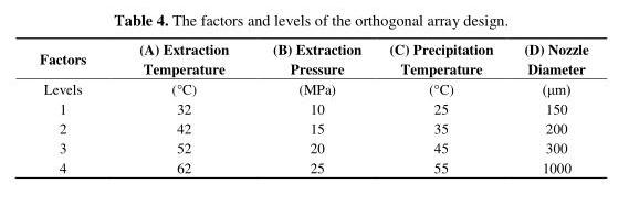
<table><thead><tr><td rowspan="2">Factors Levels</td><td rowspan="2">(A) Extraction Temperature (°C)</td><td rowspan="2">(B) Extraction Pressure (MPa)</td><td rowspan="2">(C) Precipitation Temperature (°C)</td><td rowspan="2">(D) Nozzle Diameter (μm)</td></tr><tr></tr></thead><tbody><tr><td>1</td><td>32</td><td>10</td><td>25</td><td>150</td></tr><tr><td>2</td><td>42</td><td>15</td><td>35</td><td>200</td></tr><tr><td>3</td><td>52</td><td>20</td><td>45</td><td>300</td></tr><tr><td>4</td><td>62</td><td>25</td><td>55</td><td>1000</td></tr></tbody></table>